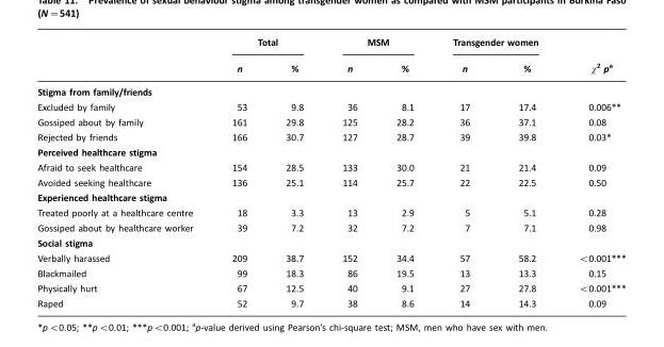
<table><thead><tr><td rowspan="2"></td><td colspan="2">Total</td><td colspan="2">MSM</td><td colspan="2">Transgender women</td><td rowspan="2">χ<sup>2</sup> p<sup>a</sup></td></tr><tr><td>n</td><td>%</td><td>n</td><td>%</td><td>n</td><td>%</td></tr></thead><tbody><tr><td colspan="8">Stigma from family/friends</td></tr><tr><td>Excluded by family</td><td>53</td><td>9.8</td><td>36</td><td>8.1</td><td>17</td><td>17.4</td><td>0.006**</td></tr><tr><td>Gossiped about by family</td><td>161</td><td>29.8</td><td>125</td><td>28.2</td><td>36</td><td>37.1</td><td>0.08</td></tr><tr><td>Rejected by friends</td><td>166</td><td>30.7</td><td>127</td><td>28.7</td><td>39</td><td>39.8</td><td>0.03*</td></tr><tr><td colspan="8">Perceived healthcare stigma</td></tr><tr><td>Afraid to seek healthcare</td><td>154</td><td>28.5</td><td>133</td><td>30.0</td><td>21</td><td>21.4</td><td>0.09</td></tr><tr><td>Avoided seeking healthcare</td><td>136</td><td>25.1</td><td>114</td><td>25.7</td><td>22</td><td>22.5</td><td>0.50</td></tr><tr><td colspan="8">Experienced healthcare stigma</td></tr><tr><td>Treated poorly at a healthcare centre</td><td>18</td><td>3.3</td><td>13</td><td>2.9</td><td>5</td><td>5.1</td><td>0.28</td></tr><tr><td>Gossiped about by healthcare worker</td><td>39</td><td>7.2</td><td>32</td><td>7.2</td><td>7</td><td>7.1</td><td>0.98</td></tr><tr><td colspan="8">Social stigma</td></tr><tr><td>Verbally harassed</td><td>209</td><td>38.7</td><td>152</td><td>34.4</td><td>57</td><td>58.2</td><td>&lt;0.001***</td></tr><tr><td>Blackmailed</td><td>99</td><td>18.3</td><td>86</td><td>19.5</td><td>13</td><td>13.3</td><td>0.15</td></tr><tr><td>Physically hurt</td><td>67</td><td>12.5</td><td>40</td><td>9.1</td><td>27</td><td>27.8</td><td>&lt;0.001***</td></tr><tr><td>Raped</td><td>52</td><td>9.7</td><td>38</td><td>8.6</td><td>14</td><td>14.3</td><td>0.09</td></tr></tbody></table>